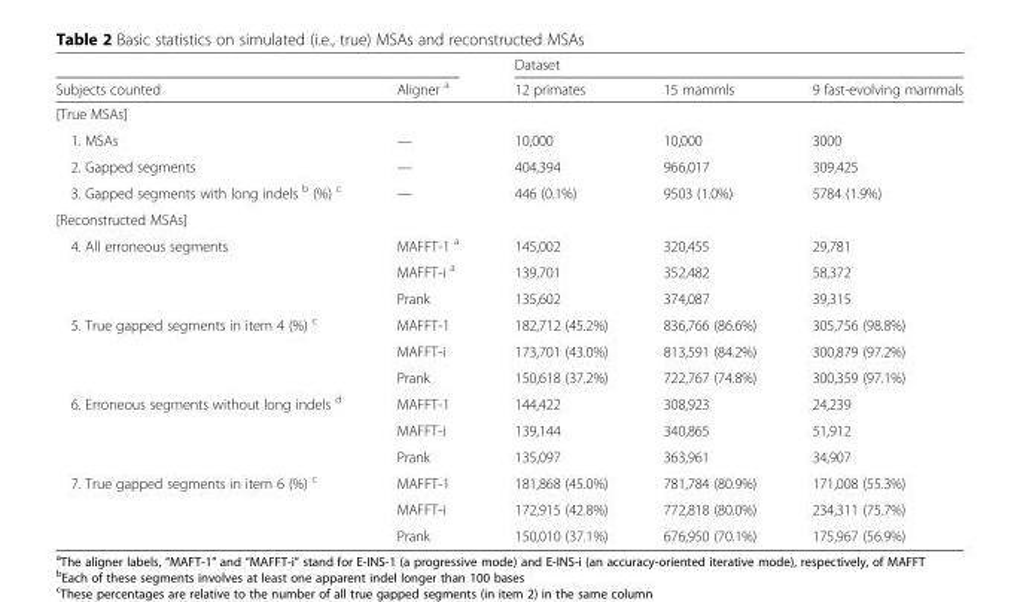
<table><thead><tr><td rowspan="2">Subjects counted</td><td rowspan="2">Aligner <sup>a</sup></td><td colspan="3">Dataset</td></tr><tr><td>12 primates</td><td>15 mammls</td><td>9 fast-evolving mammals</td></tr></thead><tbody><tr><td colspan="5">[True MSAs]</td></tr><tr><td>1. MSAs</td><td>—</td><td>10,000</td><td>10,000</td><td>3000</td></tr><tr><td>2. Gapped segments</td><td>—</td><td>404,394</td><td>966,017</td><td>309,425</td></tr><tr><td>3. Gapped segments with long indels <sup>b</sup> (%) <sup>c</sup></td><td>—</td><td>446 (0.1%)</td><td>9503 (1.0%)</td><td>5784 (1.9%)</td></tr><tr><td colspan="5">[Reconstructed MSAs]</td></tr><tr><td rowspan="3">4. All erroneous segments</td><td>MAFFT-1 <sup>a</sup></td><td>145,002</td><td>320,455</td><td>29,781</td></tr><tr><td>MAFFT-i <sup>a</sup></td><td>139,701</td><td>352,482</td><td>58,372</td></tr><tr><td>Prank</td><td>135,602</td><td>374,087</td><td>39,315</td></tr><tr><td rowspan="3">5. True gapped segments in item 4 (%) <sup>c</sup></td><td>MAFFT-1</td><td>182,712 (45.2%)</td><td>836,766 (86.6%)</td><td>305,756 (98.8%)</td></tr><tr><td>MAFFT-i</td><td>173,701 (43.0%)</td><td>813,591 (84.2%)</td><td>300,879 (97.2%)</td></tr><tr><td>Prank</td><td>150,618 (37.2%)</td><td>722,767 (74.8%)</td><td>300,359 (97.1%)</td></tr><tr><td rowspan="3">6. Erroneous segments without long indels <sup>d</sup></td><td>MAFFT-1</td><td>144,422</td><td>308,923</td><td>24,239</td></tr><tr><td>MAFFT-i</td><td>139,144</td><td>340,865</td><td>51,912</td></tr><tr><td>Prank</td><td>135,097</td><td>363,961</td><td>34,907</td></tr><tr><td rowspan="3">7. True gapped segments in item 6 (%) <sup>c</sup></td><td>MAFFT-1</td><td>181,868 (45.0%)</td><td>781,784 (80.9%)</td><td>171,008 (55.3%)</td></tr><tr><td>MAFFT-i</td><td>172,915 (42.8%)</td><td>772,818 (80.0%)</td><td>234,311 (75.7%)</td></tr><tr><td>Prank</td><td>150,010 (37.1%)</td><td>676,950 (70.1%)</td><td>175,967 (56.9%)</td></tr></tbody></table>